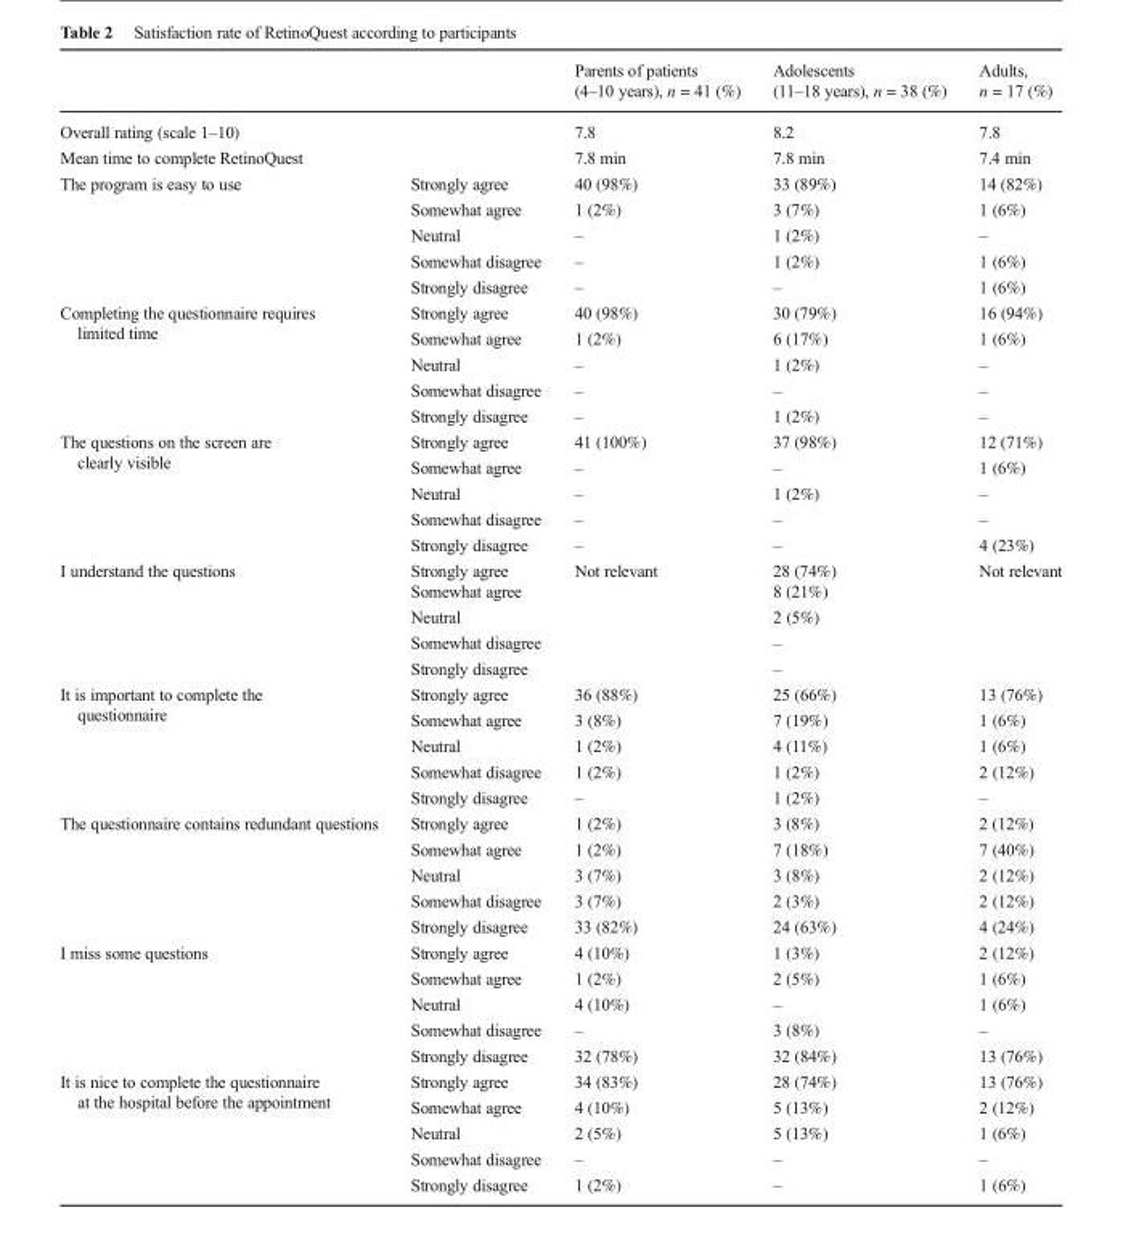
<table><thead><tr><td></td><td></td><td>Parents of patients (4–10 years), n = 41 (%)</td><td>Adolescents (11–18 years), n = 38 (%)</td><td>Adults, n = 17 (%)</td></tr></thead><tbody><tr><td colspan="2">Overall rating (scale 1–10)</td><td>7.8</td><td>8.2</td><td>7.8</td></tr><tr><td colspan="2">Mean time to complete RetinoQuest</td><td>7.8 min</td><td>7.8 min</td><td>7.4 min</td></tr><tr><td rowspan="5">The program is easy to use</td><td>Strongly agree</td><td>40 (98%)</td><td>33 (89%)</td><td>14 (82%)</td></tr><tr><td>Somewhat agree</td><td>1 (2%)</td><td>3 (7%)</td><td>1 (6%)</td></tr><tr><td>Neutral</td><td>–</td><td>1 (2%)</td><td>–</td></tr><tr><td>Somewhat disagree</td><td>–</td><td>1 (2%)</td><td>1 (6%)</td></tr><tr><td>Strongly disagree</td><td>–</td><td>–</td><td>1 (6%)</td></tr><tr><td rowspan="5">Completing the questionnaire requires limited time</td><td>Strongly agree</td><td>40 (98%)</td><td>30 (79%)</td><td>16 (94%)</td></tr><tr><td>Somewhat agree</td><td>1 (2%)</td><td>6 (17%)</td><td>1 (6%)</td></tr><tr><td>Neutral</td><td>–</td><td>1 (2%)</td><td>–</td></tr><tr><td>Somewhat disagree</td><td>–</td><td>–</td><td>–</td></tr><tr><td>Strongly disagree</td><td>–</td><td>1 (2%)</td><td>–</td></tr><tr><td rowspan="5">The questions on the screen are clearly visible</td><td>Strongly agree</td><td>41 (100%)</td><td>37 (98%)</td><td>12 (71%)</td></tr><tr><td>Somewhat agree</td><td>–</td><td>–</td><td>1 (6%)</td></tr><tr><td>Neutral</td><td>–</td><td>1 (2%)</td><td>–</td></tr><tr><td>Somewhat disagree</td><td>–</td><td>–</td><td>–</td></tr><tr><td>Strongly disagree</td><td>–</td><td>–</td><td>4 (23%)</td></tr><tr><td rowspan="5">I understand the questions</td><td>Strongly agree</td><td rowspan="5">Not relevant</td><td>28 (74%)</td><td rowspan="5">Not relevant</td></tr><tr><td>Somewhat agree</td><td>8 (21%)</td></tr><tr><td>Neutral</td><td>2 (5%)</td></tr><tr><td>Somewhat disagree</td><td>–</td></tr><tr><td>Strongly disagree</td><td>–</td></tr><tr><td rowspan="5">It is important to complete the questionnaire</td><td>Strongly agree</td><td>36 (88%)</td><td>25 (66%)</td><td>13 (76%)</td></tr><tr><td>Somewhat agree</td><td>3 (8%)</td><td>7 (19%)</td><td>1 (6%)</td></tr><tr><td>Neutral</td><td>1 (2%)</td><td>4 (11%)</td><td>1 (6%)</td></tr><tr><td>Somewhat disagree</td><td>1 (2%)</td><td>1 (2%)</td><td>2 (12%)</td></tr><tr><td>Strongly disagree</td><td>–</td><td>1 (2%)</td><td>–</td></tr><tr><td rowspan="5">The questionnaire contains redundant questions</td><td>Strongly agree</td><td>1 (2%)</td><td>3 (8%)</td><td>2 (12%)</td></tr><tr><td>Somewhat agree</td><td>1 (2%)</td><td>7 (18%)</td><td>7 (40%)</td></tr><tr><td>Neutral</td><td>3 (7%)</td><td>3 (8%)</td><td>2 (12%)</td></tr><tr><td>Somewhat disagree</td><td>3 (7%)</td><td>2 (3%)</td><td>2 (12%)</td></tr><tr><td>Strongly disagree</td><td>33 (82%)</td><td>24 (63%)</td><td>4 (24%)</td></tr><tr><td rowspan="5">I miss some questions</td><td>Strongly agree</td><td>4 (10%)</td><td>1 (3%)</td><td>2 (12%)</td></tr><tr><td>Somewhat agree</td><td>1 (2%)</td><td>2 (5%)</td><td>1 (6%)</td></tr><tr><td>Neutral</td><td>4 (10%)</td><td>–</td><td>1 (6%)</td></tr><tr><td>Somewhat disagree</td><td>–</td><td>3 (8%)</td><td>–</td></tr><tr><td>Strongly disagree</td><td>32 (78%)</td><td>32 (84%)</td><td>13 (76%)</td></tr><tr><td rowspan="5">It is nice to complete the questionnaire at the hospital before the appointment</td><td>Strongly agree</td><td>34 (83%)</td><td>28 (74%)</td><td>13 (76%)</td></tr><tr><td>Somewhat agree</td><td>4 (10%)</td><td>5 (13%)</td><td>2 (12%)</td></tr><tr><td>Neutral</td><td>2 (5%)</td><td>5 (13%)</td><td>1 (6%)</td></tr><tr><td>Somewhat disagree</td><td>–</td><td>–</td><td>–</td></tr><tr><td>Strongly disagree</td><td>1 (2%)</td><td>–</td><td>1 (6%)</td></tr></tbody></table>